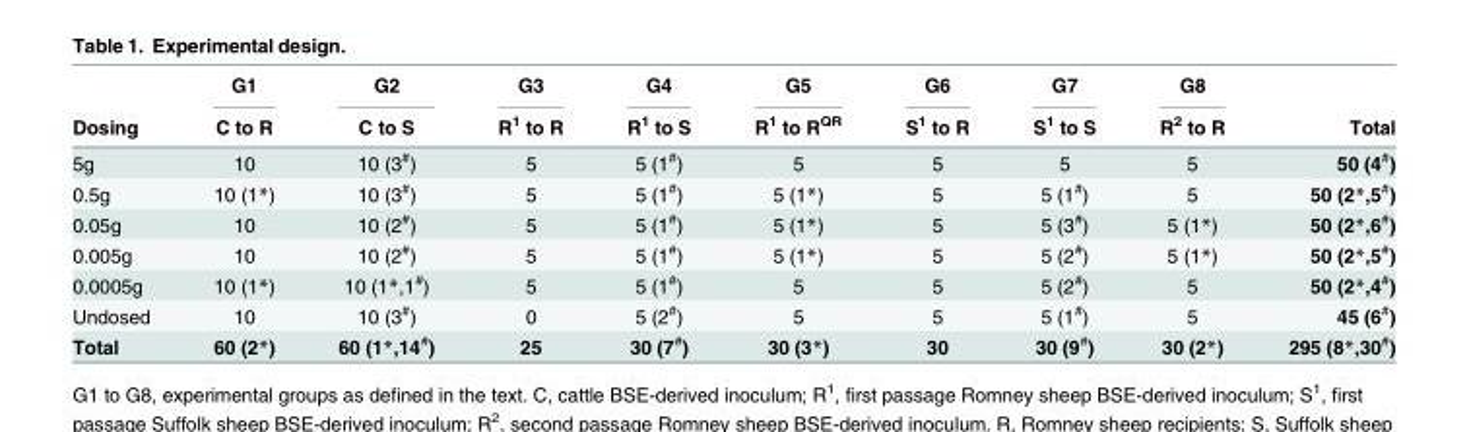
<table><thead><tr><td rowspan="2">Dosing</td><td rowspan="2">G1 C to R</td><td rowspan="2">G2 C to S</td><td rowspan="2">G3 R<sup>1</sup> to R</td><td rowspan="2">G4 R<sup>1</sup> to S</td><td rowspan="2">G5 R<sup>1</sup> to R<sup>QR</sup></td><td rowspan="2">G6 S<sup>1</sup> to R</td><td rowspan="2">G7 S<sup>1</sup> to S</td><td rowspan="2">G8 R<sup>2</sup> to R</td><td rowspan="2">Total</td></tr><tr></tr></thead><tbody><tr><td>5g</td><td>10</td><td>10 (3<sup>#</sup>)</td><td>5</td><td>5 (1<sup>#</sup>)</td><td>5</td><td>5</td><td>5</td><td>5</td><td>50 (4<sup>#</sup>)</td></tr><tr><td>0.5g</td><td>10 (1*)</td><td>10 (3<sup>#</sup>)</td><td>5</td><td>5 (1<sup>#</sup>)</td><td>5 (1*)</td><td>5</td><td>5 (1<sup>#</sup>)</td><td>5</td><td>50 (2*,5<sup>#</sup>)</td></tr><tr><td>0.05g</td><td>10</td><td>10 (2<sup>#</sup>)</td><td>5</td><td>5 (1<sup>#</sup>)</td><td>5 (1*)</td><td>5</td><td>5 (3<sup>#</sup>)</td><td>5 (1*)</td><td>50 (2*,6<sup>#</sup>)</td></tr><tr><td>0.005g</td><td>10</td><td>10 (2<sup>#</sup>)</td><td>5</td><td>5 (1<sup>#</sup>)</td><td>5 (1*)</td><td>5</td><td>5 (2<sup>#</sup>)</td><td>5 (1*)</td><td>50 (2*,5<sup>#</sup>)</td></tr><tr><td>0.0005g</td><td>10 (1*)</td><td>10 (1*,1<sup>#</sup>)</td><td>5</td><td>5 (1<sup>#</sup>)</td><td>5</td><td>5</td><td>5 (2<sup>#</sup>)</td><td>5</td><td>50 (2*,4<sup>#</sup>)</td></tr><tr><td>Undosed</td><td>10</td><td>10 (3<sup>#</sup>)</td><td>0</td><td>5 (2<sup>#</sup>)</td><td>5</td><td>5</td><td>5 (1<sup>#</sup>)</td><td>5</td><td>45 (6<sup>#</sup>)</td></tr><tr><td>Total</td><td>60 (2*)</td><td>60 (1*,14<sup>#</sup>)</td><td>25</td><td>30 (7<sup>#</sup>)</td><td>30 (3*)</td><td>30</td><td>30 (9<sup>#</sup>)</td><td>30 (2*)</td><td>295 (8*,30<sup>#</sup>)</td></tr></tbody></table>